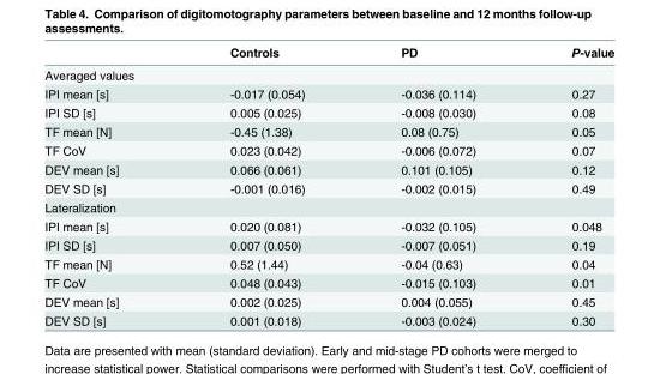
<table><thead><tr><td></td><td>Controls</td><td>PD</td><td>P-value</td></tr></thead><tbody><tr><td colspan="4">Averaged values</td></tr><tr><td>IPI mean [s]</td><td>-0.017 (0.054)</td><td>-0.036 (0.114)</td><td>0.27</td></tr><tr><td>IPI SD [s]</td><td>0.005 (0.025)</td><td>-0.008 (0.030)</td><td>0.08</td></tr><tr><td>TF mean [N]</td><td>-0.45 (1.38)</td><td>0.08 (0.75)</td><td>0.05</td></tr><tr><td>TF CoV</td><td>0.023 (0.042)</td><td>-0.006 (0.072)</td><td>0.07</td></tr><tr><td>DEV mean [s]</td><td>0.066 (0.061)</td><td>0.101 (0.105)</td><td>0.12</td></tr><tr><td>DEV SD [s]</td><td>-0.001 (0.016)</td><td>-0.002 (0.015)</td><td>0.49</td></tr><tr><td colspan="4">Lateralization</td></tr><tr><td>IPI mean [s]</td><td>0.020 (0.081)</td><td>-0.032 (0.105)</td><td>0.048</td></tr><tr><td>IPI SD [s]</td><td>0.007 (0.050)</td><td>-0.007 (0.051)</td><td>0.19</td></tr><tr><td>TF mean [N]</td><td>0.52 (1.44)</td><td>-0.04 (0.63)</td><td>0.04</td></tr><tr><td>TF CoV</td><td>0.048 (0.043)</td><td>-0.015 (0.103)</td><td>0.01</td></tr><tr><td>DEV mean [s]</td><td>0.002 (0.025)</td><td>0.004 (0.055)</td><td>0.45</td></tr><tr><td>DEV SD [s]</td><td>0.001 (0.018)</td><td>-0.003 (0.024)</td><td>0.30</td></tr></tbody></table>